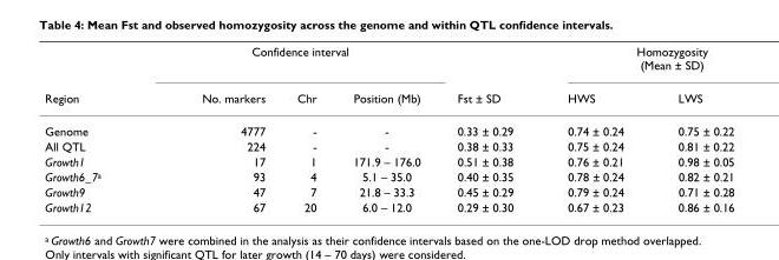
<table><thead><tr><td rowspan="2">Region</td><td colspan="3">Confidence interval</td><td rowspan="2">Fst ± SD</td><td colspan="2">Homozygosity (Mean ± SD)</td></tr><tr><td>No. markers</td><td>Chr</td><td>Position (Mb)</td><td>HWS</td><td>LWS</td></tr></thead><tbody><tr><td>Genome</td><td>4777</td><td>-</td><td>-</td><td>0.33 ± 0.29</td><td>0.74 ± 0.24</td><td>0.75 ± 0.22</td></tr><tr><td>All QTL</td><td>224</td><td>-</td><td>-</td><td>0.38 ± 0.33</td><td>0.75 ± 0.24</td><td>0.81 ± 0.22</td></tr><tr><td>Growth1</td><td>17</td><td>1</td><td>171.9 – 176.0</td><td>0.51 ± 0.38</td><td>0.76 ± 0.21</td><td>0.98 ± 0.05</td></tr><tr><td>Growth6_7<sup>a</sup></td><td>93</td><td>4</td><td>5.1 – 35.0</td><td>0.40 ± 0.35</td><td>0.78 ± 0.24</td><td>0.82 ± 0.21</td></tr><tr><td>Growth9</td><td>47</td><td>7</td><td>21.8 – 33.3</td><td>0.45 ± 0.29</td><td>0.79 ± 0.24</td><td>0.71 ± 0.28</td></tr><tr><td>Growth12</td><td>67</td><td>20</td><td>6.0 – 12.0</td><td>0.29 ± 0.30</td><td>0.67 ± 0.23</td><td>0.86 ± 0.16</td></tr></tbody></table>